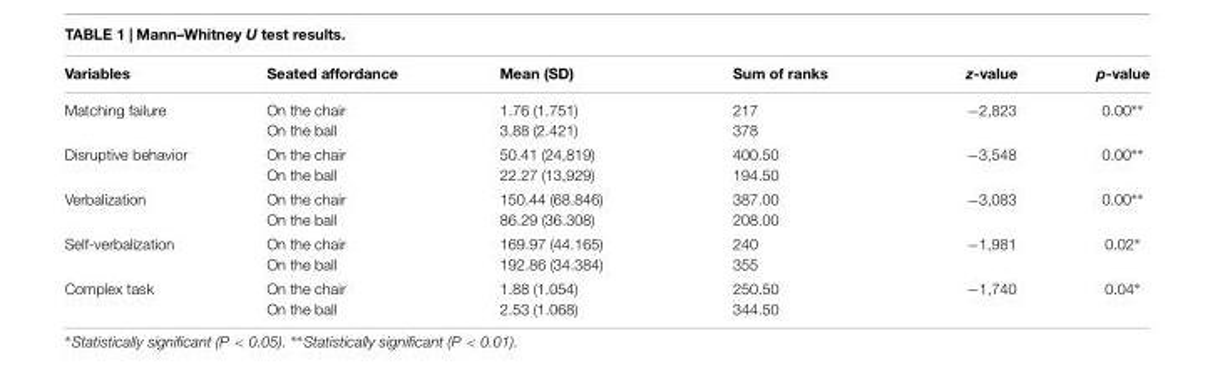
<table><thead><tr><td>Variables</td><td>Seated affordance</td><td>Mean (SD)</td><td>Sum of ranks</td><td>z-value</td><td>p-value</td></tr></thead><tbody><tr><td>Matching failure</td><td>On the chair On the ball</td><td>1.76 (1.751) 3.88 (2.421)</td><td>217 378</td><td>−2,823</td><td>0.00∗∗</td></tr><tr><td>Disruptive behavior</td><td>On the chair On the ball</td><td>50.41 (24,819) 22.27 (13,929)</td><td>400.50 194.50</td><td>−3,548</td><td>0.00∗∗</td></tr><tr><td>Verbalization</td><td>On the chair On the ball</td><td>150.44 (68.846) 86.29 (36.308)</td><td>387.00 208.00</td><td>−3,083</td><td>0.00∗∗</td></tr><tr><td>Self-verbalization</td><td>On the chair On the ball</td><td>169.97 (44.165) 192.86 (34.384)</td><td>240 355</td><td>−1,981</td><td>0.02∗</td></tr><tr><td>Complex task</td><td>On the chair On the ball</td><td>1.88 (1.054) 2.53 (1.068)</td><td>250.50 344.50</td><td>−1,740</td><td>0.04∗</td></tr></tbody></table>